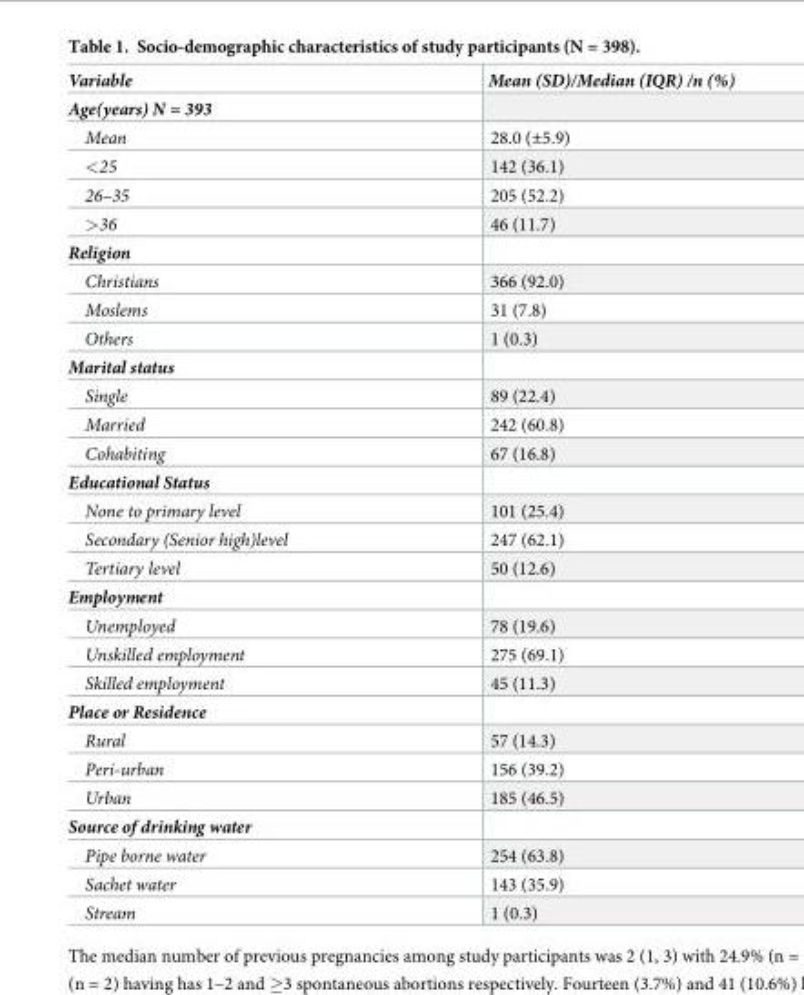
<table><thead><tr><td>Variable</td><td>Mean (SD)/Median (IQR) /n (%)</td></tr></thead><tbody><tr><td colspan="2">Age(years) N = 393</td></tr><tr><td>Mean</td><td>28.0 (±5.9)</td></tr><tr><td>&lt;25</td><td>142 (36.1)</td></tr><tr><td>26–35</td><td>205 (52.2)</td></tr><tr><td>&gt;36</td><td>46 (11.7)</td></tr><tr><td colspan="2">Religion</td></tr><tr><td>Christians</td><td>366 (92.0)</td></tr><tr><td>Moslems</td><td>31 (7.8)</td></tr><tr><td>Others</td><td>1 (0.3)</td></tr><tr><td colspan="2">Marital status</td></tr><tr><td>Single</td><td>89 (22.4)</td></tr><tr><td>Married</td><td>242 (60.8)</td></tr><tr><td>Cohabiting</td><td>67 (16.8)</td></tr><tr><td colspan="2">Educational Status</td></tr><tr><td>None to primary level</td><td>101 (25.4)</td></tr><tr><td>Secondary (Senior high)level</td><td>247 (62.1)</td></tr><tr><td>Tertiary level</td><td>50 (12.6)</td></tr><tr><td colspan="2">Employment</td></tr><tr><td>Unemployed</td><td>78 (19.6)</td></tr><tr><td>Unskilled employment</td><td>275 (69.1)</td></tr><tr><td>Skilled employment</td><td>45 (11.3)</td></tr><tr><td colspan="2">Place or Residence</td></tr><tr><td>Rural</td><td>57 (14.3)</td></tr><tr><td>Peri-urban</td><td>156 (39.2)</td></tr><tr><td>Urban</td><td>185 (46.5)</td></tr><tr><td colspan="2">Source of drinking water</td></tr><tr><td>Pipe borne water</td><td>254 (63.8)</td></tr><tr><td>Sachet water</td><td>143 (35.9)</td></tr><tr><td>Stream</td><td>1 (0.3)</td></tr></tbody></table>